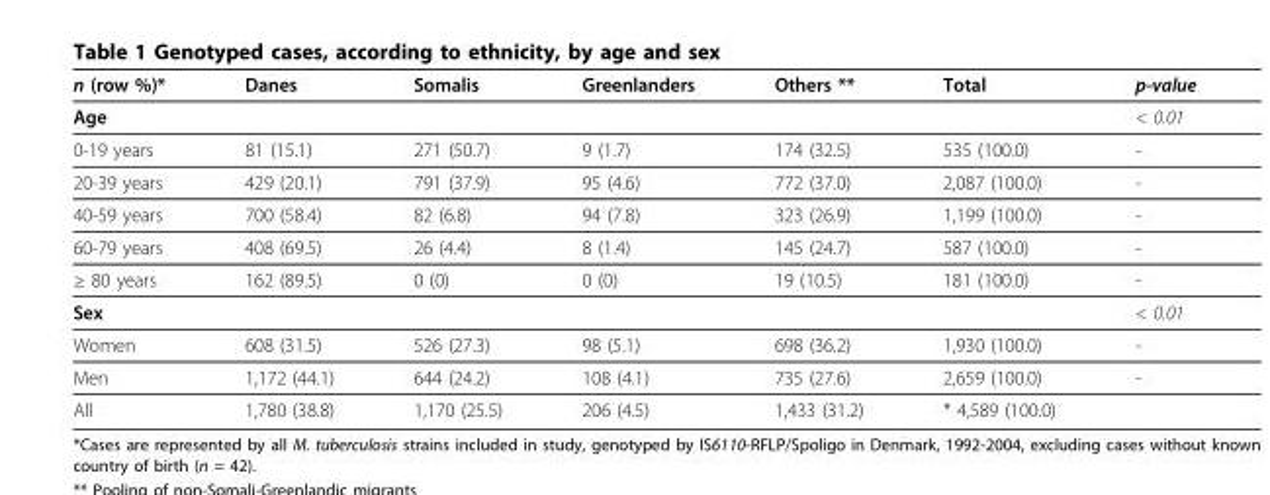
<table><thead><tr><td>n (row %)*</td><td>Danes</td><td>Somalis</td><td>Greenlanders</td><td>Others **</td><td>Total</td><td>p-value</td></tr></thead><tbody><tr><td>Age</td><td></td><td></td><td></td><td></td><td></td><td>&lt; 0.01</td></tr><tr><td>0-19 years</td><td>81 (15.1)</td><td>271 (50.7)</td><td>9 (1.7)</td><td>174 (32.5)</td><td>535 (100.0)</td><td>-</td></tr><tr><td>20-39 years</td><td>429 (20.1)</td><td>791 (37.9)</td><td>95 (4.6)</td><td>772 (37.0)</td><td>2,087 (100.0)</td><td>-</td></tr><tr><td>40-59 years</td><td>700 (58.4)</td><td>82 (6.8)</td><td>94 (7.8)</td><td>323 (26.9)</td><td>1,199 (100.0)</td><td>-</td></tr><tr><td>60-79 years</td><td>408 (69.5)</td><td>26 (4.4)</td><td>8 (1.4)</td><td>145 (24.7)</td><td>587 (100.0)</td><td>-</td></tr><tr><td>≥ 80 years</td><td>162 (89.5)</td><td>0 (0)</td><td>0 (0)</td><td>19 (10.5)</td><td>181 (100.0)</td><td>-</td></tr><tr><td>Sex</td><td></td><td></td><td></td><td></td><td></td><td>&lt; 0.01</td></tr><tr><td>Women</td><td>608 (31.5)</td><td>526 (27.3)</td><td>98 (5.1)</td><td>698 (36.2)</td><td>1,930 (100.0)</td><td>-</td></tr><tr><td>Men</td><td>1,172 (44.1)</td><td>644 (24.2)</td><td>108 (4.1)</td><td>735 (27.6)</td><td>2,659 (100.0)</td><td>-</td></tr><tr><td>All</td><td>1,780 (38.8)</td><td>1,170 (25.5)</td><td>206 (4.5)</td><td>1,433 (31.2)</td><td>* 4,589 (100.0)</td><td></td></tr></tbody></table>